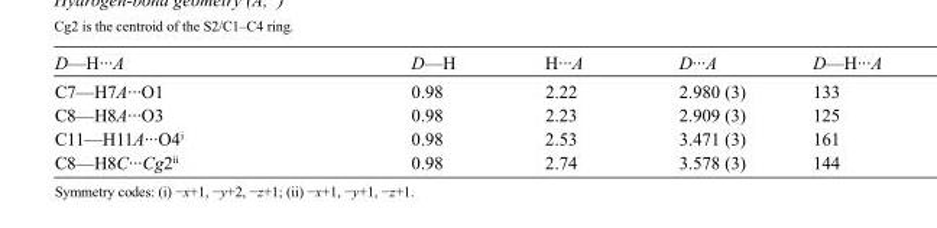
<table><tbody><tr><td>D—H···A</td><td>D—H</td><td>H···A</td><td>D···A</td><td>D—H···A</td></tr><tr><td>C7—H7A···O1</td><td>0.98</td><td>2.22</td><td>2.980 (3)</td><td>133</td></tr><tr><td>C8—H8A···O3</td><td>0.98</td><td>2.23</td><td>2.909 (3)</td><td>125</td></tr><tr><td>C11—H11A···O4<sup>i</sup></td><td>0.98</td><td>2.53</td><td>3.471 (3)</td><td>161</td></tr><tr><td>C8—H8C···Cg2<sup>ii</sup></td><td>0.98</td><td>2.74</td><td>3.578 (3)</td><td>144</td></tr></tbody></table>